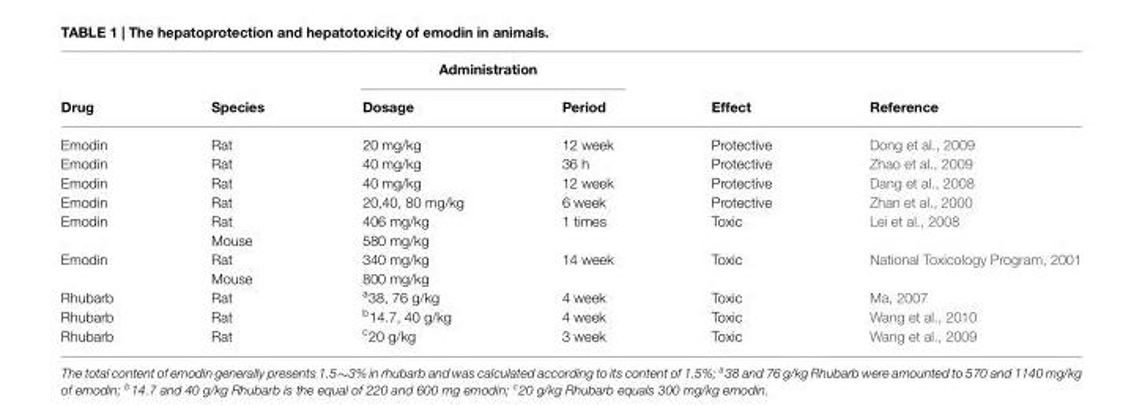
<table><thead><tr><td rowspan="2">Drug</td><td rowspan="2">Species</td><td colspan="2">Administration</td><td rowspan="2">Effect</td><td rowspan="2">Reference</td></tr><tr><td>Dosage</td><td>Period</td></tr></thead><tbody><tr><td>Emodin</td><td>Rat</td><td>20 mg/kg</td><td>12 week</td><td>Protective</td><td>Dong et al., 2009</td></tr><tr><td>Emodin</td><td>Rat</td><td>40 mg/kg</td><td>36 h</td><td>Protective</td><td>Zhao et al., 2009</td></tr><tr><td>Emodin</td><td>Rat</td><td>40 mg/kg</td><td>12 week</td><td>Protective</td><td>Dang et al., 2008</td></tr><tr><td>Emodin</td><td>Rat</td><td>20,40, 80 mg/kg</td><td>6 week</td><td>Protective</td><td>Zhan et al., 2000</td></tr><tr><td rowspan="2">Emodin</td><td>Rat</td><td>406 mg/kg</td><td>1 times</td><td>Toxic</td><td>Lei et al., 2008</td></tr><tr><td>Mouse</td><td>580 mg/kg</td><td></td><td></td><td></td></tr><tr><td rowspan="2">Emodin</td><td>Rat</td><td>340 mg/kg</td><td>14 week</td><td>Toxic</td><td>National Toxicology Program, 2001</td></tr><tr><td>Mouse</td><td>800 mg/kg</td><td></td><td></td><td></td></tr><tr><td>Rhubarb</td><td>Rat</td><td><sup>a</sup>38, 76 g/kg</td><td>4 week</td><td>Toxic</td><td>Ma, 2007</td></tr><tr><td>Rhubarb</td><td>Rat</td><td><sup>b</sup>14.7, 40 g/kg</td><td>4 week</td><td>Toxic</td><td>Wang et al., 2010</td></tr><tr><td>Rhubarb</td><td>Rat</td><td><sup>c</sup>20 g/kg</td><td>3 week</td><td>Toxic</td><td>Wang et al., 2009</td></tr></tbody></table>